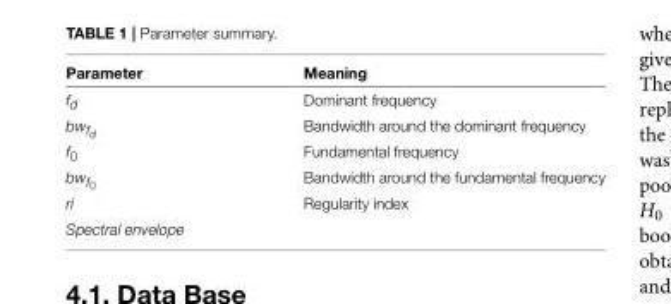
<table><thead><tr><td>Parameter</td><td>Meaning</td></tr></thead><tbody><tr><td>f<sub>d</sub></td><td>Dominant frequency</td></tr><tr><td>bwfd</td><td>Bandwidth around the dominant frequency</td></tr><tr><td>f<sub>0</sub></td><td>Fundamental frequency</td></tr><tr><td>bwf0</td><td>Bandwidth around the fundamental frequency</td></tr><tr><td>ri</td><td>Regularity index</td></tr><tr><td>Spectral envelope</td><td></td></tr></tbody></table>